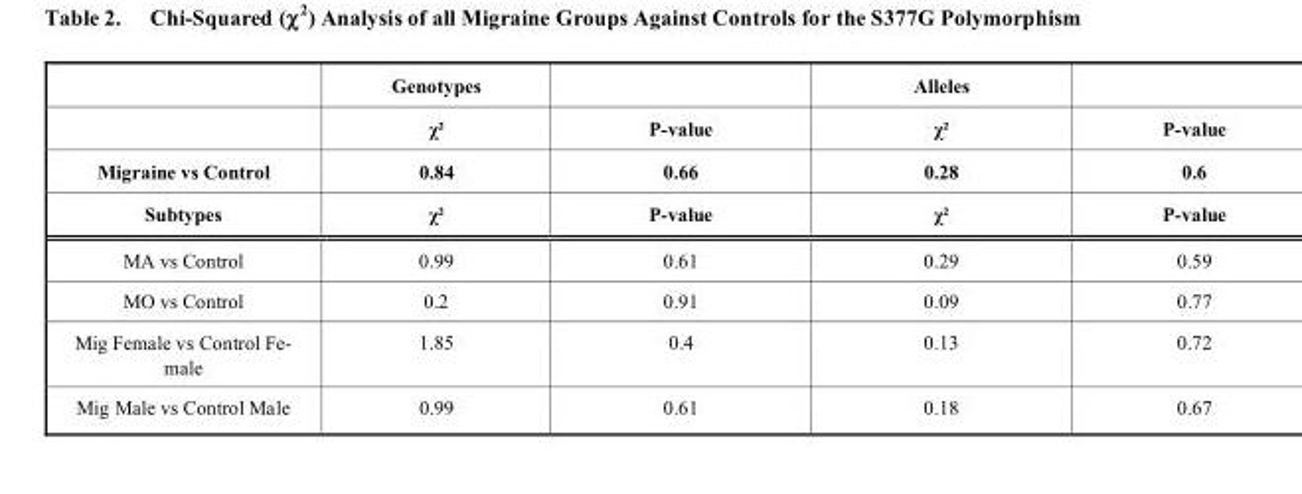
<table><thead><tr><td rowspan="4">Migraine vs Control Subtypes</td><td rowspan="4">Genotypes χ² 0.84 χ²</td><td rowspan="4">P-value 0.66 P-value</td><td rowspan="4">Alleles χ² 0.28 χ²</td><td rowspan="4">P-value 0.6 P-value</td></tr><tr></tr><tr></tr><tr></tr></thead><tbody><tr><td>MA vs Control</td><td>0.99</td><td>0.61</td><td>0.29</td><td>0.59</td></tr><tr><td>MO vs Control</td><td>0.2</td><td>0.91</td><td>0.09</td><td>0.77</td></tr><tr><td>Mig Female vs Control Fe- male</td><td>1.85</td><td>0.4</td><td>0.13</td><td>0.72</td></tr><tr><td>Mig Male vs Control Male</td><td>0.99</td><td>0.61</td><td>0.18</td><td>0.67</td></tr></tbody></table>